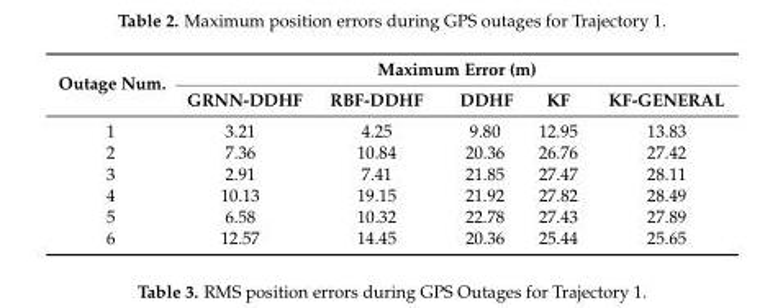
<table><thead><tr><td rowspan="2">Outage Num.</td><td colspan="5">Maximum Error (m)</td></tr><tr><td>GRNN-DDHF</td><td>RBF-DDHF</td><td>DDHF</td><td>KF</td><td>KF-GENERAL</td></tr></thead><tbody><tr><td>1</td><td>3.21</td><td>4.25</td><td>9.80</td><td>12.95</td><td>13.83</td></tr><tr><td>2</td><td>7.36</td><td>10.84</td><td>20.36</td><td>26.76</td><td>27.42</td></tr><tr><td>3</td><td>2.91</td><td>7.41</td><td>21.85</td><td>27.47</td><td>28.11</td></tr><tr><td>4</td><td>10.13</td><td>19.15</td><td>21.92</td><td>27.82</td><td>28.49</td></tr><tr><td>5</td><td>6.58</td><td>10.32</td><td>22.78</td><td>27.43</td><td>27.89</td></tr><tr><td>6</td><td>12.57</td><td>14.45</td><td>20.36</td><td>25.44</td><td>25.65</td></tr></tbody></table>